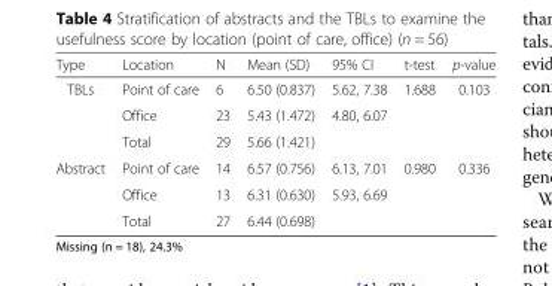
<table><thead><tr><td>Type</td><td>Location</td><td>N</td><td>Mean (SD)</td><td>95% CI</td><td>t-test</td><td>p-value</td></tr></thead><tbody><tr><td rowspan="3">TBLs</td><td>Point of care</td><td>6</td><td>6.50 (0.837)</td><td>5.62, 7.38</td><td>1.688</td><td>0.103</td></tr><tr><td>Office</td><td>23</td><td>5.43 (1.472)</td><td>4.80, 6.07</td><td></td><td></td></tr><tr><td>Total</td><td>29</td><td>5.66 (1.421)</td><td></td><td></td><td></td></tr><tr><td rowspan="3">Abstract</td><td>Point of care</td><td>14</td><td>6.57 (0.756)</td><td>6.13, 7.01</td><td>0.980</td><td>0.336</td></tr><tr><td>Office</td><td>13</td><td>6.31 (0.630)</td><td>5.93, 6.69</td><td></td><td></td></tr><tr><td>Total</td><td>27</td><td>6.44 (0.698)</td><td></td><td></td><td></td></tr></tbody></table>